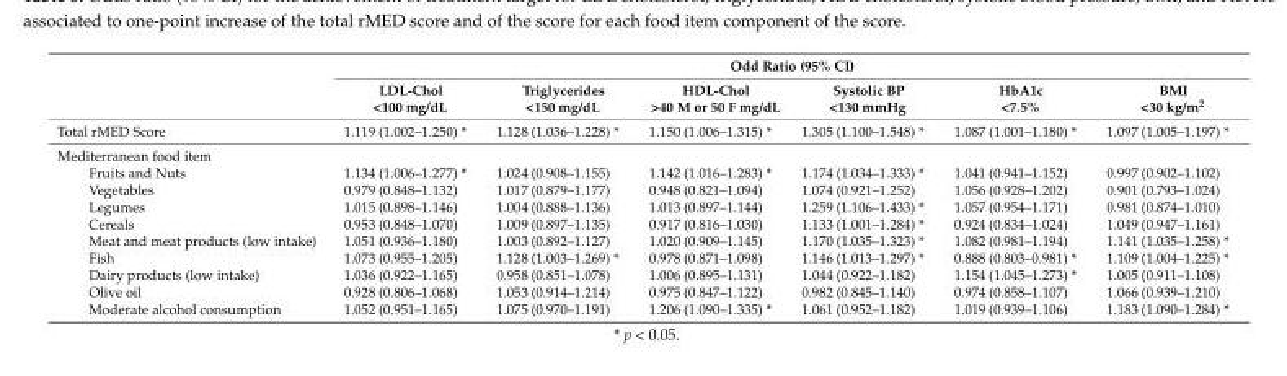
<table><thead><tr><td rowspan="2"></td><td colspan="6">Odd Ratio (95% CI)</td></tr><tr><td>LDL-Chol &lt;100 mg/dL</td><td>Triglycerides &lt;150 mg/dL</td><td>HDL-Chol &gt;40 M or 50 F mg/dL</td><td>Systolic BP &lt;130 mmHg</td><td>HbA1c &lt;7.5%</td><td>BMI &lt;30 kg/m<sup>2</sup></td></tr></thead><tbody><tr><td>Total rMED Score</td><td>1.119 (1.002–1.250) *</td><td>1.128 (1.036–1.228) *</td><td>1.150 (1.006–1.315) *</td><td>1.305 (1.100–1.548) *</td><td>1.087 (1.001–1.180) *</td><td>1.097 (1.005–1.197) *</td></tr><tr><td colspan="7">Mediterranean food item</td></tr><tr><td>Fruits and Nuts</td><td>1.134 (1.006–1.277) *</td><td>1.024 (0.908–1.155)</td><td>1.142 (1.016–1.283) *</td><td>1.174 (1.034–1.333) *</td><td>1.041 (0.941–1.152)</td><td>0.997 (0.902–1.102)</td></tr><tr><td>Vegetables</td><td>0.979 (0.848–1.132)</td><td>1.017 (0.879–1.177)</td><td>0.948 (0.821–1.094)</td><td>1.074 (0.921–1.252)</td><td>1.056 (0.928–1.202)</td><td>0.901 (0.793–1.024)</td></tr><tr><td>Legumes</td><td>1.015 (0.898–1.146)</td><td>1.004 (0.888–1.136)</td><td>1.013 (0.897–1.144)</td><td>1.259 (1.106–1.433) *</td><td>1.057 (0.954–1.171)</td><td>0.981 (0.874–1.010)</td></tr><tr><td>Cereals</td><td>0.953 (0.848–1.070)</td><td>1.009 (0.897–1.135)</td><td>0.917 (0.816–1.030)</td><td>1.133 (1.001–1.284) *</td><td>0.924 (0.834–1.024)</td><td>1.049 (0.947–1.161)</td></tr><tr><td>Meat and meat products (low intake)</td><td>1.051 (0.936–1.180)</td><td>1.003 (0.892–1.127)</td><td>1.020 (0.909–1.145)</td><td>1.170 (1.035–1.323) *</td><td>1.082 (0.981–1.194)</td><td>1.141 (1.035–1.258) *</td></tr><tr><td>Fish</td><td>1.073 (0.955–1.205)</td><td>1.128 (1.003–1.269) *</td><td>0.978 (0.871–1.098)</td><td>1.146 (1.013–1.297) *</td><td>0.888 (0.803–0.981) *</td><td>1.109 (1.004–1.225) *</td></tr><tr><td>Dairy products (low intake)</td><td>1.036 (0.922–1.165)</td><td>0.958 (0.851–1.078)</td><td>1.006 (0.895–1.131)</td><td>1.044 (0.922–1.182)</td><td>1.154 (1.045–1.273) *</td><td>1.005 (0.911–1.108)</td></tr><tr><td>Olive oil</td><td>0.928 (0.806–1.068)</td><td>1.053 (0.914–1.214)</td><td>0.975 (0.847–1.122)</td><td>0.982 (0.845–1.140)</td><td>0.974 (0.858–1.107)</td><td>1.066 (0.939–1.210)</td></tr><tr><td>Moderate alcohol consumption</td><td>1.052 (0.951–1.165)</td><td>1.075 (0.970–1.191)</td><td>1.206 (1.090–1.335) *</td><td>1.061 (0.952–1.182)</td><td>1.019 (0.939–1.106)</td><td>1.183 (1.090–1.284) *</td></tr></tbody></table>